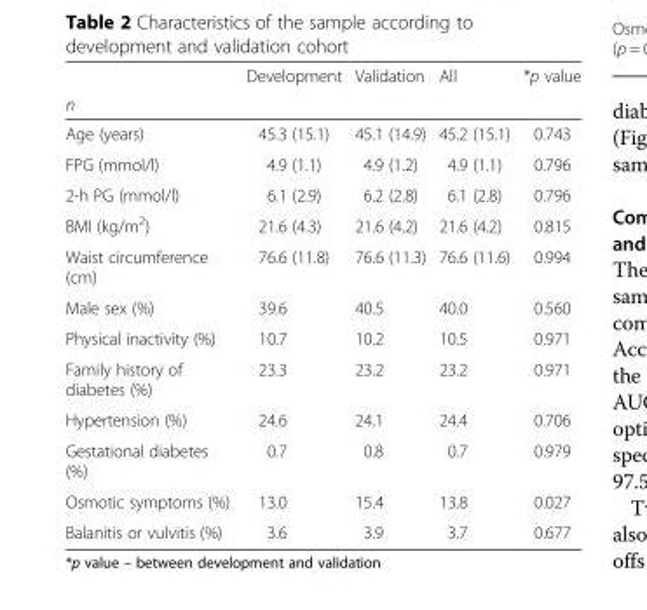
<table><thead><tr><td rowspan="2">n</td><td rowspan="2">Development</td><td rowspan="2">Validation</td><td rowspan="2">All</td><td rowspan="2">*p value</td></tr><tr></tr></thead><tbody><tr><td>Age (years)</td><td>45.3 (15.1)</td><td>45.1 (14.9)</td><td>45.2 (15.1)</td><td>0.743</td></tr><tr><td>FPG (mmol/l)</td><td>4.9 (1.1)</td><td>4.9 (1.2)</td><td>4.9 (1.1)</td><td>0.796</td></tr><tr><td>2-h PG (mmol/l)</td><td>6.1 (2.9)</td><td>6.2 (2.8)</td><td>6.1 (2.8)</td><td>0.796</td></tr><tr><td>BMI (kg/m<sup>2</sup>)</td><td>21.6 (4.3)</td><td>21.6 (4.2)</td><td>21.6 (4.2)</td><td>0.815</td></tr><tr><td>Waist circumference (cm)</td><td>76.6 (11.8)</td><td>76.6 (11.3)</td><td>76.6 (11.6)</td><td>0.994</td></tr><tr><td>Male sex (%)</td><td>39.6</td><td>40.5</td><td>40.0</td><td>0.560</td></tr><tr><td>Physical inactivity (%)</td><td>10.7</td><td>10.2</td><td>10.5</td><td>0.971</td></tr><tr><td>Family history of diabetes (%)</td><td>23.3</td><td>23.2</td><td>23.2</td><td>0.971</td></tr><tr><td>Hypertension (%)</td><td>24.6</td><td>24.1</td><td>24.4</td><td>0.706</td></tr><tr><td>Gestational diabetes (%)</td><td>0.7</td><td>0.8</td><td>0.7</td><td>0.979</td></tr><tr><td>Osmotic symptoms (%)</td><td>13.0</td><td>15.4</td><td>13.8</td><td>0.027</td></tr><tr><td>Balanitis or vulvitis (%)</td><td>3.6</td><td>3.9</td><td>3.7</td><td>0.677</td></tr></tbody></table>